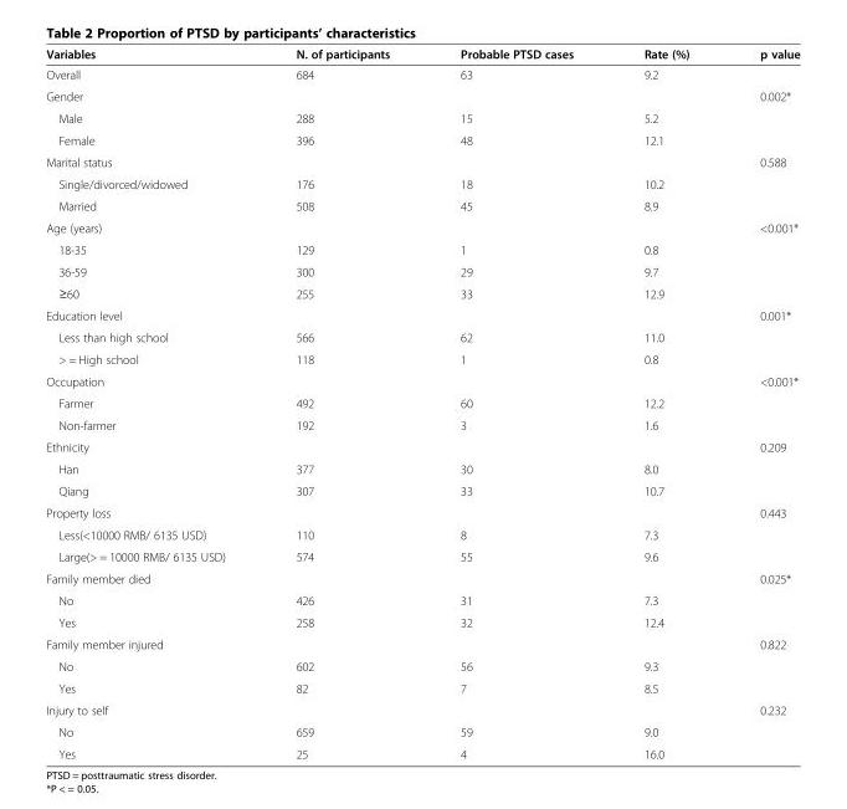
<table><thead><tr><td>Variables</td><td>N. of participants</td><td>Probable PTSD cases</td><td>Rate (%)</td><td>p value</td></tr></thead><tbody><tr><td>Overall</td><td>684</td><td>63</td><td>9.2</td><td></td></tr><tr><td>Gender</td><td></td><td></td><td></td><td>0.002*</td></tr><tr><td>Male</td><td>288</td><td>15</td><td>5.2</td><td></td></tr><tr><td>Female</td><td>396</td><td>48</td><td>12.1</td><td></td></tr><tr><td>Marital status</td><td></td><td></td><td></td><td>0.588</td></tr><tr><td>Single/divorced/widowed</td><td>176</td><td>18</td><td>10.2</td><td></td></tr><tr><td>Married</td><td>508</td><td>45</td><td>8.9</td><td></td></tr><tr><td>Age (years)</td><td></td><td></td><td></td><td>&lt;0.001*</td></tr><tr><td>18-35</td><td>129</td><td>1</td><td>0.8</td><td></td></tr><tr><td>36-59</td><td>300</td><td>29</td><td>9.7</td><td></td></tr><tr><td>≥60</td><td>255</td><td>33</td><td>12.9</td><td></td></tr><tr><td>Education level</td><td></td><td></td><td></td><td>0.001*</td></tr><tr><td>Less than high school</td><td>566</td><td>62</td><td>11.0</td><td></td></tr><tr><td>&gt; = High school</td><td>118</td><td>1</td><td>0.8</td><td></td></tr><tr><td>Occupation</td><td></td><td></td><td></td><td>&lt;0.001*</td></tr><tr><td>Farmer</td><td>492</td><td>60</td><td>12.2</td><td></td></tr><tr><td>Non-farmer</td><td>192</td><td>3</td><td>1.6</td><td></td></tr><tr><td>Ethnicity</td><td></td><td></td><td></td><td>0.209</td></tr><tr><td>Han</td><td>377</td><td>30</td><td>8.0</td><td></td></tr><tr><td>Qiang</td><td>307</td><td>33</td><td>10.7</td><td></td></tr><tr><td>Property loss</td><td></td><td></td><td></td><td>0.443</td></tr><tr><td>Less(&lt;10000 RMB/ 6135 USD)</td><td>110</td><td>8</td><td>7.3</td><td></td></tr><tr><td>Large(&gt; = 10000 RMB/ 6135 USD)</td><td>574</td><td>55</td><td>9.6</td><td></td></tr><tr><td>Family member died</td><td></td><td></td><td></td><td>0.025*</td></tr><tr><td>No</td><td>426</td><td>31</td><td>7.3</td><td></td></tr><tr><td>Yes</td><td>258</td><td>32</td><td>12.4</td><td></td></tr><tr><td>Family member injured</td><td></td><td></td><td></td><td>0.822</td></tr><tr><td>No</td><td>602</td><td>56</td><td>9.3</td><td></td></tr><tr><td>Yes</td><td>82</td><td>7</td><td>8.5</td><td></td></tr><tr><td>Injury to self</td><td></td><td></td><td></td><td>0.232</td></tr><tr><td>No</td><td>659</td><td>59</td><td>9.0</td><td></td></tr><tr><td>Yes</td><td>25</td><td>4</td><td>16.0</td><td></td></tr></tbody></table>